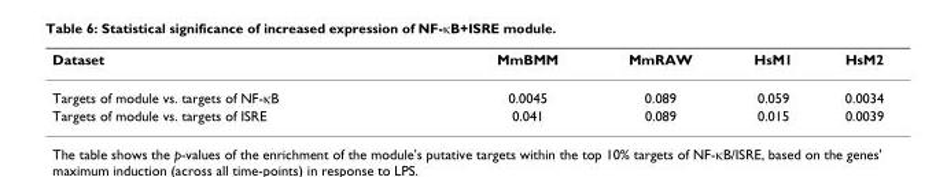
<table><thead><tr><td>Dataset</td><td>MmBMM</td><td>MmRAW</td><td>HsM1</td><td>HsM2</td></tr></thead><tbody><tr><td>Targets of module vs. targets of NF-κB</td><td>0.0045</td><td>0.089</td><td>0.059</td><td>0.0034</td></tr><tr><td>Targets of module vs. targets of ISRE</td><td>0.041</td><td>0.089</td><td>0.015</td><td>0.0039</td></tr></tbody></table>